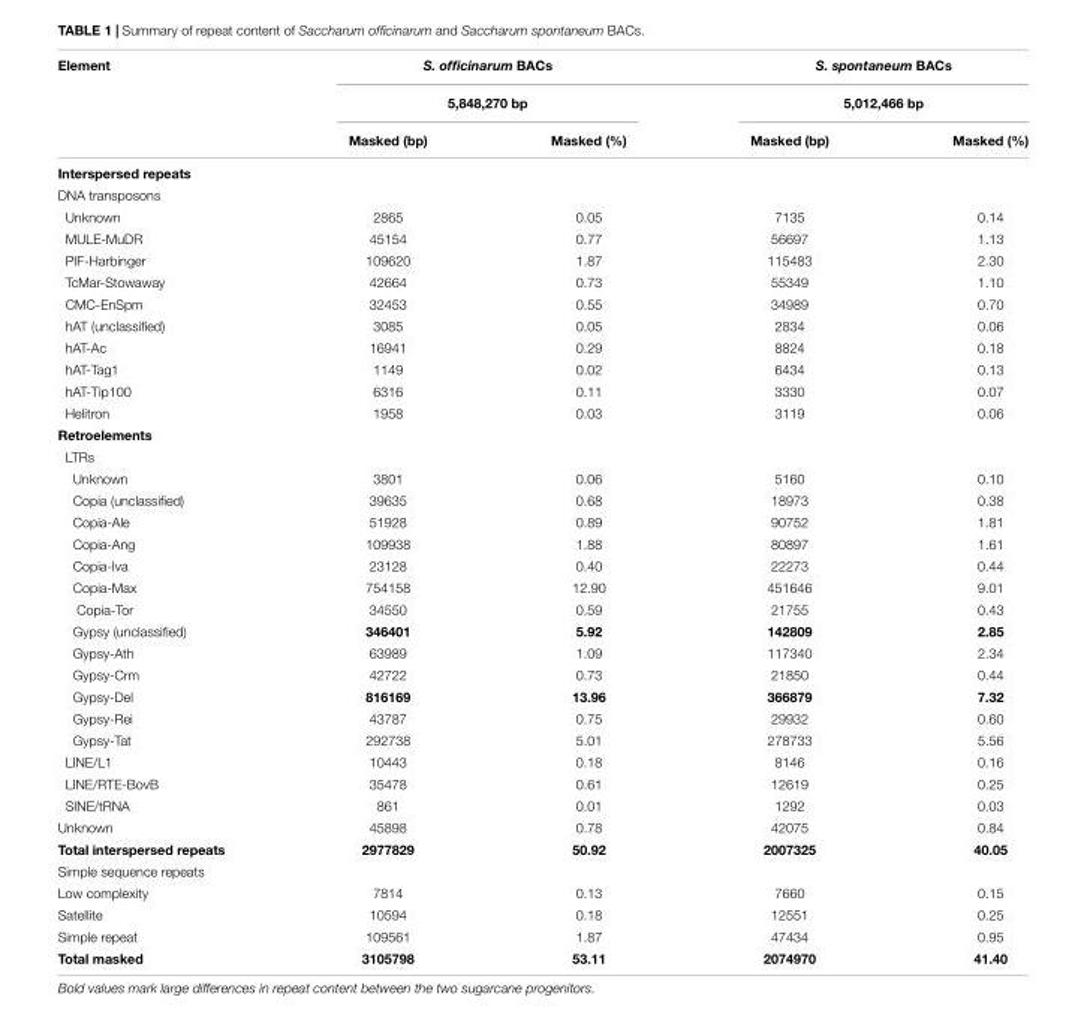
<table><thead><tr><td rowspan="3">Element</td><td rowspan="2" colspan="2">S. officinarum BACs 5,848,270 bp</td><td rowspan="2" colspan="2">S. spontaneum BACs 5,012,466 bp</td></tr><tr></tr><tr><td>Masked (bp)</td><td>Masked (%)</td><td>Masked (bp)</td><td>Masked (%)</td></tr></thead><tbody><tr><td colspan="5">Interspersed repeats</td></tr><tr><td colspan="5">DNA transposons</td></tr><tr><td>Unknown</td><td>2865</td><td>0.05</td><td>7135</td><td>0.14</td></tr><tr><td>MULE-MuDR</td><td>45154</td><td>0.77</td><td>56697</td><td>1.13</td></tr><tr><td>PIF-Harbinger</td><td>109620</td><td>1.87</td><td>115483</td><td>2.30</td></tr><tr><td>TcMar-Stowaway</td><td>42664</td><td>0.73</td><td>55349</td><td>1.10</td></tr><tr><td>CMC-EnSpm</td><td>32453</td><td>0.55</td><td>34989</td><td>0.70</td></tr><tr><td>hAT (unclassified)</td><td>3085</td><td>0.05</td><td>2834</td><td>0.06</td></tr><tr><td>hAT-Ac</td><td>16941</td><td>0.29</td><td>8824</td><td>0.18</td></tr><tr><td>hAT-Tag1</td><td>1149</td><td>0.02</td><td>6434</td><td>0.13</td></tr><tr><td>hAT-Tip100</td><td>6316</td><td>0.11</td><td>3330</td><td>0.07</td></tr><tr><td>Helitron</td><td>1958</td><td>0.03</td><td>3119</td><td>0.06</td></tr><tr><td colspan="5">Retroelements</td></tr><tr><td colspan="5">LTRs</td></tr><tr><td>Unknown</td><td>3801</td><td>0.06</td><td>5160</td><td>0.10</td></tr><tr><td>Copia (unclassified)</td><td>39635</td><td>0.68</td><td>18973</td><td>0.38</td></tr><tr><td>Copia-Ale</td><td>51928</td><td>0.89</td><td>90752</td><td>1.81</td></tr><tr><td>Copia-Ang</td><td>109938</td><td>1.88</td><td>80897</td><td>1.61</td></tr><tr><td>Copia-Iva</td><td>23128</td><td>0.40</td><td>22273</td><td>0.44</td></tr><tr><td>Copia-Max</td><td>754158</td><td>12.90</td><td>451646</td><td>9.01</td></tr><tr><td>Copia-Tor</td><td>34550</td><td>0.59</td><td>21755</td><td>0.43</td></tr><tr><td>Gypsy (unclassified)</td><td>346401</td><td>5.92</td><td>142809</td><td>2.85</td></tr><tr><td>Gypsy-Ath</td><td>63989</td><td>1.09</td><td>117340</td><td>2.34</td></tr><tr><td>Gypsy-Crm</td><td>42722</td><td>0.73</td><td>21850</td><td>0.44</td></tr><tr><td>Gypsy-Del</td><td>816169</td><td>13.96</td><td>366879</td><td>7.32</td></tr><tr><td>Gypsy-Rei</td><td>43787</td><td>0.75</td><td>29932</td><td>0.60</td></tr><tr><td>Gypsy-Tat</td><td>292738</td><td>5.01</td><td>278733</td><td>5.56</td></tr><tr><td>LINE/L1</td><td>10443</td><td>0.18</td><td>8146</td><td>0.16</td></tr><tr><td>LINE/RTE-BovB</td><td>35478</td><td>0.61</td><td>12619</td><td>0.25</td></tr><tr><td>SINE/tRNA</td><td>861</td><td>0.01</td><td>1292</td><td>0.03</td></tr><tr><td>Unknown</td><td>45898</td><td>0.78</td><td>42075</td><td>0.84</td></tr><tr><td>Total interspersed repeats</td><td>2977829</td><td>50.92</td><td>2007325</td><td>40.05</td></tr><tr><td colspan="5">Simple sequence repeats</td></tr><tr><td>Low complexity</td><td>7814</td><td>0.13</td><td>7660</td><td>0.15</td></tr><tr><td>Satellite</td><td>10594</td><td>0.18</td><td>12551</td><td>0.25</td></tr><tr><td>Simple repeat</td><td>109561</td><td>1.87</td><td>47434</td><td>0.95</td></tr><tr><td>Total masked</td><td>3105798</td><td>53.11</td><td>2074970</td><td>41.40</td></tr></tbody></table>